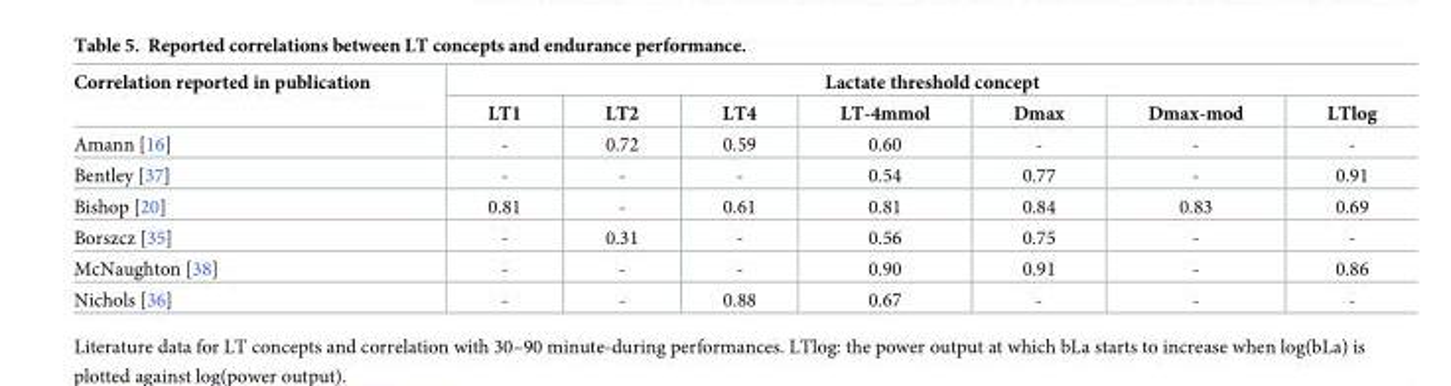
<table><thead><tr><td rowspan="2">Correlation reported in publication</td><td colspan="7">Lactate threshold concept</td></tr><tr><td>LT1</td><td>LT2</td><td>LT4</td><td>LT-4mmol</td><td>Dmax</td><td>Dmax-mod</td><td>LTlog</td></tr></thead><tbody><tr><td>Amann [16]</td><td>-</td><td>0.72</td><td>0.59</td><td>0.60</td><td>-</td><td>-</td><td>-</td></tr><tr><td>Bentley [37]</td><td>-</td><td>-</td><td>-</td><td>0.54</td><td>0.77</td><td>-</td><td>0.91</td></tr><tr><td>Bishop [20]</td><td>0.81</td><td>-</td><td>0.61</td><td>0.81</td><td>0.84</td><td>0.83</td><td>0.69</td></tr><tr><td>Borszcz [35]</td><td>-</td><td>0.31</td><td>-</td><td>0.56</td><td>0.75</td><td>-</td><td>-</td></tr><tr><td>McNaughton [38]</td><td>-</td><td>-</td><td>-</td><td>0.90</td><td>0.91</td><td>-</td><td>0.86</td></tr><tr><td>Nichols [36]</td><td>-</td><td>-</td><td>0.88</td><td>0.67</td><td>-</td><td>-</td><td>-</td></tr></tbody></table>